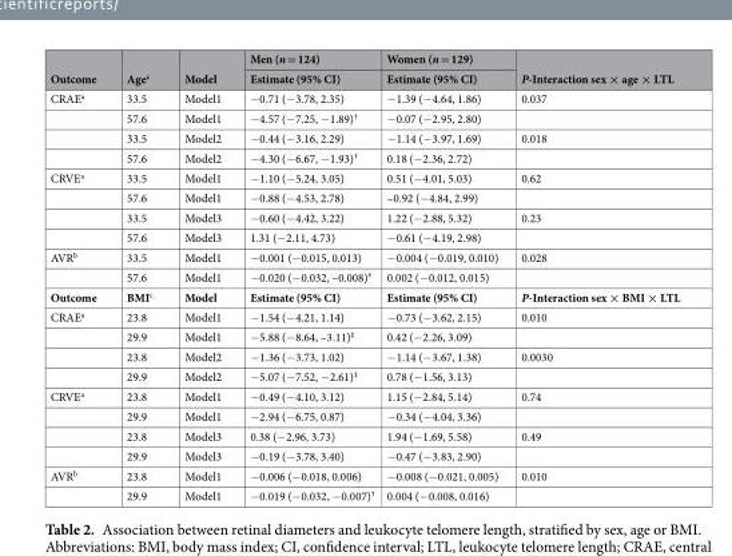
<table><thead><tr><td rowspan="2">Outcome</td><td rowspan="2">Age<sup>c</sup></td><td rowspan="2">Model</td><td rowspan="2">Men (n = 124) Estimate (95% CI)</td><td rowspan="2">Women (n = 129) Estimate (95% CI)</td><td rowspan="2">P-Interaction sex × age × LTL</td></tr><tr></tr></thead><tbody><tr><td rowspan="4">CRAE<sup>a</sup></td><td>33.5</td><td>Model1</td><td>−0.71 (−3.78, 2.35)</td><td>−1.39 (−4.64, 1.86)</td><td>0.037</td></tr><tr><td>57.6</td><td>Model1</td><td>−4.57 (−7.25, −1.89)<sup>†</sup></td><td>−0.07 (−2.95, 2.80)</td><td></td></tr><tr><td>33.5</td><td>Model2</td><td>−0.44 (−3.16, 2.29)</td><td>−1.14 (−3.97, 1.69)</td><td>0.018</td></tr><tr><td>57.6</td><td>Model2</td><td>−4.30 (−6.67, −1.93)<sup>†</sup></td><td>0.18 (−2.36, 2.72)</td><td></td></tr><tr><td rowspan="4">CRVE<sup>a</sup></td><td>33.5</td><td>Model1</td><td>−1.10 (−5.24, 3.05)</td><td>0.51 (−4.01, 5.03)</td><td>0.62</td></tr><tr><td>57.6</td><td>Model1</td><td>−0.88 (−4.53, 2.78)</td><td>–0.92 (−4.84, 2.99)</td><td></td></tr><tr><td>33.5</td><td>Model3</td><td>−0.60 (−4.42, 3.22)</td><td>1.22 (−2.88, 5.32)</td><td>0.23</td></tr><tr><td>57.6</td><td>Model3</td><td>1.31 (−2.11, 4.73)</td><td>−0.61 (−4.19, 2.98)</td><td></td></tr><tr><td rowspan="2">AVR<sup>b</sup></td><td>33.5</td><td>Model1</td><td>−0.001 (−0.015, 0.013)</td><td>−0.004 (−0.019, 0.010)</td><td>0.028</td></tr><tr><td>57.6</td><td>Model1</td><td>−0.020 (−0.032, –0.008)<sup>†</sup></td><td>0.002 (−0.012, 0.015)</td><td></td></tr><tr><td>Outcome</td><td>BMI<sup>c</sup></td><td>Model</td><td>Estimate (95% CI)</td><td>Estimate (95% CI)</td><td>P-Interaction sex × BMI × LTL</td></tr><tr><td rowspan="4">CRAE<sup>a</sup></td><td>23.8</td><td>Model1</td><td>−1.54 (−4.21, 1.14)</td><td>−0.73 (−3.62, 2.15)</td><td>0.010</td></tr><tr><td>29.9</td><td>Model1</td><td>−5.88 (−8.64, –3.11)‡</td><td>0.42 (−2.26, 3.09)</td><td></td></tr><tr><td>23.8</td><td>Model2</td><td>−1.36 (−3.73, 1.02)</td><td>−1.14 (−3.67, 1.38)</td><td>0.0030</td></tr><tr><td>29.9</td><td>Model2</td><td>−5.07 (−7.52, −2.61)<sup>‡</sup></td><td>0.78 (−1.56, 3.13)</td><td></td></tr><tr><td rowspan="4">CRVE<sup>a</sup></td><td>23.8</td><td>Model1</td><td>−0.49 (−4.10, 3.12)</td><td>1.15 (−2.84, 5.14)</td><td>0.74</td></tr><tr><td>29.9</td><td>Model1</td><td>−2.94 (−6.75, 0.87)</td><td>−0.34 (−4.04, 3.36)</td><td></td></tr><tr><td>23.8</td><td>Model3</td><td>0.38 (−2.96, 3.73)</td><td>1.94 (−1.69, 5.58)</td><td>0.49</td></tr><tr><td>29.9</td><td>Model3</td><td>−0.19 (−3.78, 3.40)</td><td>−0.47 (−3.83, 2.90)</td><td></td></tr><tr><td rowspan="2">AVR<sup>b</sup></td><td>23.8</td><td>Model1</td><td>−0.006 (−0.018, 0.006)</td><td>−0.008 (−0.021, 0.005)</td><td>0.010</td></tr><tr><td>29.9</td><td>Model1</td><td>−0.019 (−0.032, −0.007)<sup>†</sup></td><td>0.004 (−0.008, 0.016)</td><td></td></tr></tbody></table>